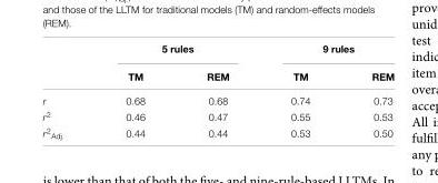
<table><thead><tr><td rowspan="2"></td><td colspan="2">5 rules</td><td colspan="2">9 rules</td></tr><tr><td>TM</td><td>REM</td><td>TM</td><td>REM</td></tr></thead><tbody><tr><td>r</td><td>0.68</td><td>0.68</td><td>0.74</td><td>0.73</td></tr><tr><td>r<sup>2</sup></td><td>0.46</td><td>0.47</td><td>0.55</td><td>0.53</td></tr><tr><td>r<sup>2</sup><sub>Adj.</sub></td><td>0.44</td><td>0.44</td><td>0.53</td><td>0.50</td></tr></tbody></table>